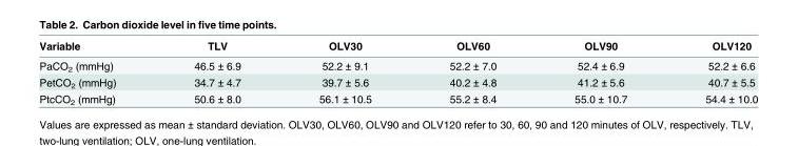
<table><thead><tr><td>Variable</td><td>TLV</td><td>OLV30</td><td>OLV60</td><td>OLV90</td><td>OLV120</td></tr></thead><tbody><tr><td>PaCO<sub>2</sub> (mmHg)</td><td>46.5 ± 6.9</td><td>52.2 ± 9.1</td><td>52.2 ± 7.0</td><td>52.4 ± 6.9</td><td>52.2 ± 6.6</td></tr><tr><td>PetCO<sub>2</sub> (mmHg)</td><td>34.7 ± 4.7</td><td>39.7 ± 5.6</td><td>40.2 ± 4.8</td><td>41.2 ± 5.6</td><td>40.7 ± 5.5</td></tr><tr><td>PtcCO<sub>2</sub> (mmHg)</td><td>50.6 ± 8.0</td><td>56.1 ± 10.5</td><td>55.2 ± 8.4</td><td>55.0 ± 10.7</td><td>54.4 ± 10.0</td></tr></tbody></table>